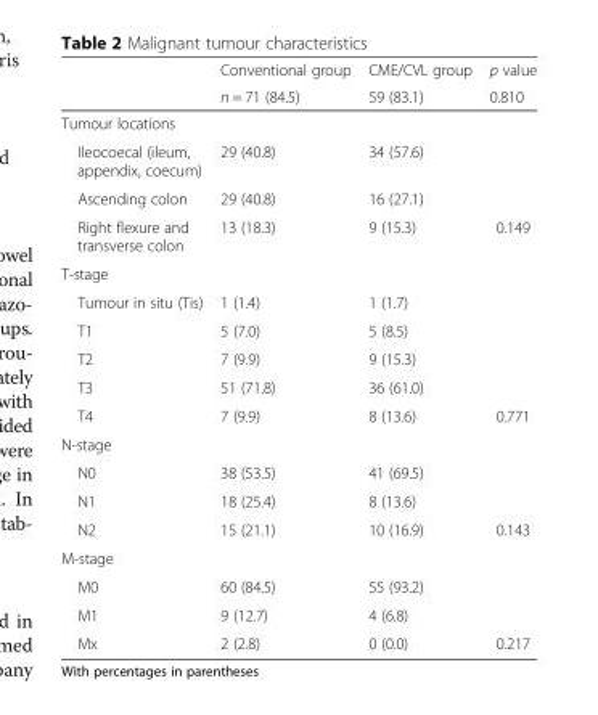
<table><thead><tr><td rowspan="2"></td><td rowspan="2">Conventional group n = 71 (84.5)</td><td rowspan="2">CME/CVL group 59 (83.1)</td><td rowspan="2">p value 0.810</td></tr><tr></tr></thead><tbody><tr><td colspan="4">Tumour locations</td></tr><tr><td>Ileocoecal (ileum, appendix, coecum)</td><td>29 (40.8)</td><td>34 (57.6)</td><td></td></tr><tr><td>Ascending colon</td><td>29 (40.8)</td><td>16 (27.1)</td><td></td></tr><tr><td>Right flexure and transverse colon</td><td>13 (18.3)</td><td>9 (15.3)</td><td>0.149</td></tr><tr><td colspan="4">T-stage</td></tr><tr><td>Tumour in situ (Tis)</td><td>1 (1.4)</td><td>1 (1.7)</td><td></td></tr><tr><td>T1</td><td>5 (7.0)</td><td>5 (8.5)</td><td></td></tr><tr><td>T2</td><td>7 (9.9)</td><td>9 (15.3)</td><td></td></tr><tr><td>T3</td><td>51 (71.8)</td><td>36 (61.0)</td><td></td></tr><tr><td>T4</td><td>7 (9.9)</td><td>8 (13.6)</td><td>0.771</td></tr><tr><td colspan="4">N-stage</td></tr><tr><td>N0</td><td>38 (53.5)</td><td>41 (69.5)</td><td></td></tr><tr><td>N1</td><td>18 (25.4)</td><td>8 (13.6)</td><td></td></tr><tr><td>N2</td><td>15 (21.1)</td><td>10 (16.9)</td><td>0.143</td></tr><tr><td colspan="4">M-stage</td></tr><tr><td>M0</td><td>60 (84.5)</td><td>55 (93.2)</td><td></td></tr><tr><td>M1</td><td>9 (12.7)</td><td>4 (6.8)</td><td></td></tr><tr><td>Mx</td><td>2 (2.8)</td><td>0 (0.0)</td><td>0.217</td></tr></tbody></table>